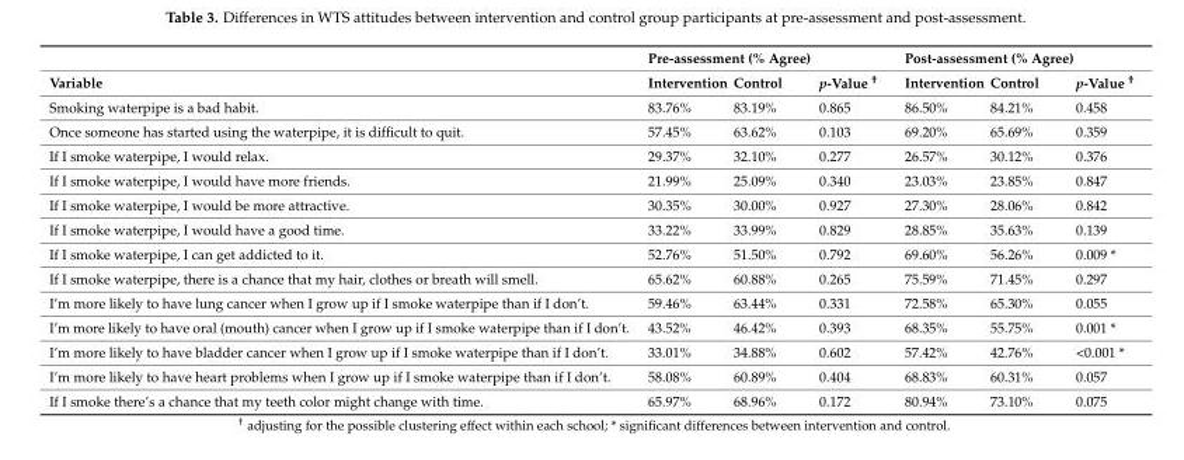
<table><thead><tr><td rowspan="2">Variable</td><td colspan="3">Pre-assessment (% Agree)</td><td colspan="3">Post-assessment (% Agree)</td></tr><tr><td>Intervention</td><td>Control</td><td>p-Value <sup>†</sup></td><td>Intervention</td><td>Control</td><td>p-Value <sup>†</sup></td></tr></thead><tbody><tr><td>Smoking waterpipe is a bad habit.</td><td>83.76%</td><td>83.19%</td><td>0.865</td><td>86.50%</td><td>84.21%</td><td>0.458</td></tr><tr><td>Once someone has started using the waterpipe, it is difficult to quit.</td><td>57.45%</td><td>63.62%</td><td>0.103</td><td>69.20%</td><td>65.69%</td><td>0.359</td></tr><tr><td>If I smoke waterpipe, I would relax.</td><td>29.37%</td><td>32.10%</td><td>0.277</td><td>26.57%</td><td>30.12%</td><td>0.376</td></tr><tr><td>If I smoke waterpipe, I would have more friends.</td><td>21.99%</td><td>25.09%</td><td>0.340</td><td>23.03%</td><td>23.85%</td><td>0.847</td></tr><tr><td>If I smoke waterpipe, I would be more attractive.</td><td>30.35%</td><td>30.00%</td><td>0.927</td><td>27.30%</td><td>28.06%</td><td>0.842</td></tr><tr><td>If I smoke waterpipe, I would have a good time.</td><td>33.22%</td><td>33.99%</td><td>0.829</td><td>28.85%</td><td>35.63%</td><td>0.139</td></tr><tr><td>If I smoke waterpipe, I can get addicted to it.</td><td>52.76%</td><td>51.50%</td><td>0.792</td><td>69.60%</td><td>56.26%</td><td>0.009 *</td></tr><tr><td>If I smoke waterpipe, there is a chance that my hair, clothes or breath will smell.</td><td>65.62%</td><td>60.88%</td><td>0.265</td><td>75.59%</td><td>71.45%</td><td>0.297</td></tr><tr><td>I’m more likely to have lung cancer when I grow up if I smoke waterpipe than if I don’t.</td><td>59.46%</td><td>63.44%</td><td>0.331</td><td>72.58%</td><td>65.30%</td><td>0.055</td></tr><tr><td>I’m more likely to have oral (mouth) cancer when I grow up if I smoke waterpipe than if I don’t.</td><td>43.52%</td><td>46.42%</td><td>0.393</td><td>68.35%</td><td>55.75%</td><td>0.001 *</td></tr><tr><td>I’m more likely to have bladder cancer when I grow up if I smoke waterpipe than if I don’t.</td><td>33.01%</td><td>34.88%</td><td>0.602</td><td>57.42%</td><td>42.76%</td><td>&lt;0.001 *</td></tr><tr><td>I’m more likely to have heart problems when I grow up if I smoke waterpipe than if I don’t.</td><td>58.08%</td><td>60.89%</td><td>0.404</td><td>68.83%</td><td>60.31%</td><td>0.057</td></tr><tr><td>If I smoke there’s a chance that my teeth color might change with time.</td><td>65.97%</td><td>68.96%</td><td>0.172</td><td>80.94%</td><td>73.10%</td><td>0.075</td></tr></tbody></table>